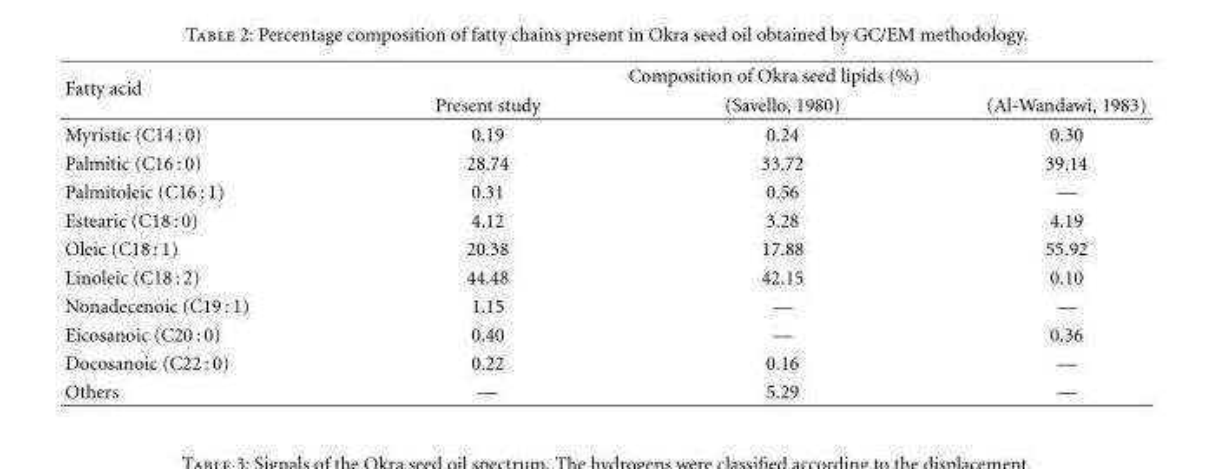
<table><thead><tr><td rowspan="2">Fatty acid</td><td colspan="3">Composition of Okra seed lipids (%)</td></tr><tr><td>Present study</td><td>(Savello, 1980)</td><td>(Al-Wandawi, 1983)</td></tr></thead><tbody><tr><td>Myristic (C14 : 0)</td><td>0.19</td><td>0.24</td><td>0.30</td></tr><tr><td>Palmitic (C16 : 0)</td><td>28.74</td><td>33.72</td><td>39.14</td></tr><tr><td>Palmitoleic (C16 : 1)</td><td>0.31</td><td>0.56</td><td>—</td></tr><tr><td>Estearic (C18 : 0)</td><td>4.12</td><td>3.28</td><td>4.19</td></tr><tr><td>Oleic (C18 : 1)</td><td>20.38</td><td>17.88</td><td>55.92</td></tr><tr><td>Linoleic (C18 : 2)</td><td>44.48</td><td>42.15</td><td>0.10</td></tr><tr><td>Nonadecenoic (C19 : 1)</td><td>1.15</td><td>—</td><td>—</td></tr><tr><td>Eicosanoic (C20 : 0)</td><td>0.40</td><td>—</td><td>0.36</td></tr><tr><td>Docosanoic (C22 : 0)</td><td>0.22</td><td>0.16</td><td>—</td></tr><tr><td>Others</td><td>—</td><td>5.29</td><td>—</td></tr></tbody></table>